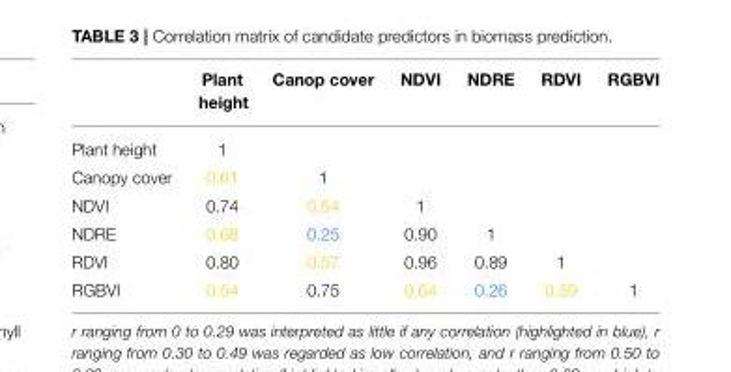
<table><thead><tr><td></td><td>Plant height</td><td>Canop cover</td><td>NDVI</td><td>NDRE</td><td>RDVI</td><td>RGBVI</td></tr></thead><tbody><tr><td>Plant height</td><td>1</td><td></td><td></td><td></td><td></td><td></td></tr><tr><td>Canopy cover</td><td>0.61</td><td>1</td><td></td><td></td><td></td><td></td></tr><tr><td>NDVI</td><td>0.74</td><td>0.54</td><td>1</td><td></td><td></td><td></td></tr><tr><td>NDRE</td><td>0.68</td><td>0.25</td><td>0.90</td><td>1</td><td></td><td></td></tr><tr><td>RDVI</td><td>0.80</td><td>0.57</td><td>0.96</td><td>0.89</td><td>1</td><td></td></tr><tr><td>RGBVI</td><td>0.54</td><td>0.75</td><td>0.64</td><td>0.26</td><td>0.59</td><td>1</td></tr></tbody></table>